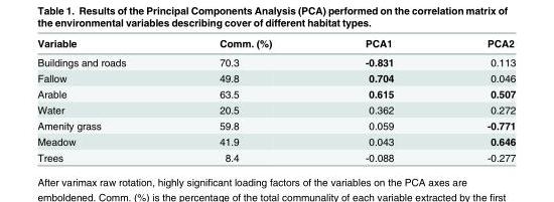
<table><thead><tr><td>Variable</td><td>Comm. (%)</td><td>PCA1</td><td>PCA2</td></tr></thead><tbody><tr><td>Buildings and roads</td><td>70.3</td><td>-0.831</td><td>0.113</td></tr><tr><td>Fallow</td><td>49.8</td><td>0.704</td><td>0.046</td></tr><tr><td>Arable</td><td>63.5</td><td>0.615</td><td>0.507</td></tr><tr><td>Water</td><td>20.5</td><td>0.362</td><td>0.272</td></tr><tr><td>Amenity grass</td><td>59.8</td><td>0.059</td><td>-0.771</td></tr><tr><td>Meadow</td><td>41.9</td><td>0.043</td><td>0.646</td></tr><tr><td>Trees</td><td>8.4</td><td>-0.088</td><td>-0.277</td></tr></tbody></table>